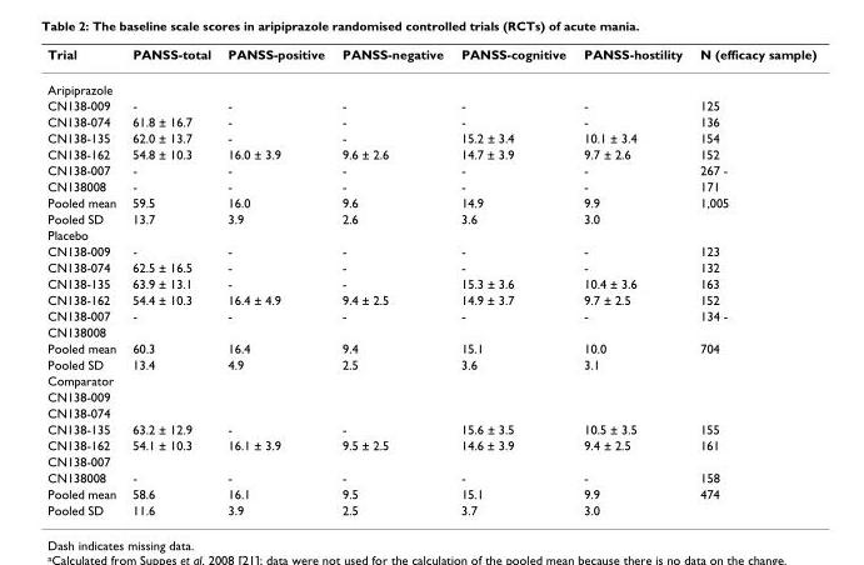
<table><thead><tr><td>Trial</td><td>PANSS-total</td><td>PANSS-positive</td><td>PANSS-negative</td><td>PANSS-cognitive</td><td>PANSS-hostility</td><td>N (efficacy sample)</td></tr></thead><tbody><tr><td colspan="7">Aripiprazole</td></tr><tr><td>CN138-009</td><td>-</td><td>-</td><td>-</td><td>-</td><td>-</td><td>125</td></tr><tr><td>CN138-074</td><td>61.8 ± 16.7</td><td>-</td><td>-</td><td>-</td><td>-</td><td>136</td></tr><tr><td>CN138-135</td><td>62.0 ± 13.7</td><td>-</td><td>-</td><td>15.2 ± 3.4</td><td>10.1 ± 3.4</td><td>154</td></tr><tr><td>CN138-162</td><td>54.8 ± 10.3</td><td>16.0 ± 3.9</td><td>9.6 ± 2.6</td><td>14.7 ± 3.9</td><td>9.7 ± 2.6</td><td>152</td></tr><tr><td>CN138-007</td><td>-</td><td>-</td><td>-</td><td>-</td><td>-</td><td>267 -</td></tr><tr><td>CN138008</td><td>-</td><td>-</td><td>-</td><td>-</td><td>-</td><td>171</td></tr><tr><td>Pooled mean</td><td>59.5</td><td>16.0</td><td>9.6</td><td>14.9</td><td>9.9</td><td>1,005</td></tr><tr><td>Pooled SD</td><td>13.7</td><td>3.9</td><td>2.6</td><td>3.6</td><td>3.0</td><td></td></tr><tr><td colspan="7">Placebo</td></tr><tr><td>CN138-009</td><td>-</td><td>-</td><td>-</td><td>-</td><td>-</td><td>123</td></tr><tr><td>CN138-074</td><td>62.5 ± 16.5</td><td>-</td><td>-</td><td>-</td><td>-</td><td>132</td></tr><tr><td>CN138-135</td><td>63.9 ± 13.1</td><td>-</td><td>-</td><td>15.3 ± 3.6</td><td>10.4 ± 3.6</td><td>163</td></tr><tr><td>CN138-162</td><td>54.4 ± 10.3</td><td>16.4 ± 4.9</td><td>9.4 ± 2.5</td><td>14.9 ± 3.7</td><td>9.7 ± 2.5</td><td>152</td></tr><tr><td>CN138-007</td><td>-</td><td>-</td><td>-</td><td>-</td><td>-</td><td>134 -</td></tr><tr><td colspan="7">CN138008</td></tr><tr><td>Pooled mean</td><td>60.3</td><td>16.4</td><td>9.4</td><td>15.1</td><td>10.0</td><td>704</td></tr><tr><td>Pooled SD</td><td>13.4</td><td>4.9</td><td>2.5</td><td>3.6</td><td>3.1</td><td></td></tr><tr><td colspan="7">Comparator</td></tr><tr><td colspan="7">CN138-009</td></tr><tr><td colspan="7">CN138-074</td></tr><tr><td>CN138-135</td><td>63.2 ± 12.9</td><td>-</td><td>-</td><td>15.6 ± 3.5</td><td>10.5 ± 3.5</td><td>155</td></tr><tr><td>CN138-162</td><td>54.1 ± 10.3</td><td>16.1 ± 3.9</td><td>9.5 ± 2.5</td><td>14.6 ± 3.9</td><td>9.4 ± 2.5</td><td>161</td></tr><tr><td colspan="7">CN138-007</td></tr><tr><td>CN138008</td><td>-</td><td>-</td><td>-</td><td>-</td><td>-</td><td>158</td></tr><tr><td>Pooled mean</td><td>58.6</td><td>16.1</td><td>9.5</td><td>15.1</td><td>9.9</td><td>474</td></tr><tr><td>Pooled SD</td><td>11.6</td><td>3.9</td><td>2.5</td><td>3.7</td><td>3.0</td><td></td></tr></tbody></table>